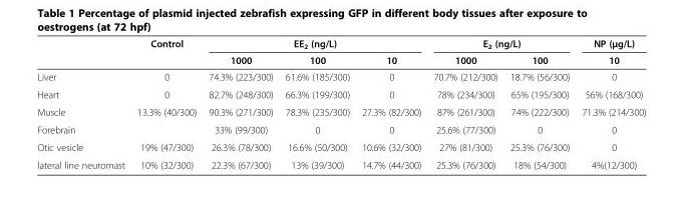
<table><thead><tr><td rowspan="2"></td><td rowspan="2">Control</td><td colspan="3">EE<sub>2</sub> (ng/L)</td><td colspan="2">E<sub>2</sub> (ng/L)</td><td rowspan="2">NP (μg/L) 10</td></tr><tr><td>1000</td><td>100</td><td>10</td><td>1000</td><td>100</td></tr></thead><tbody><tr><td>Liver</td><td>0</td><td>74.3% (223/300)</td><td>61.6% (185/300)</td><td>0</td><td>70.7% (212/300)</td><td>18.7% (56/300)</td><td>0</td></tr><tr><td>Heart</td><td>0</td><td>82.7% (248/300)</td><td>66.3% (199/300)</td><td>0</td><td>78% (234/300)</td><td>65% (195/300)</td><td>56% (168/300)</td></tr><tr><td>Muscle</td><td>13.3% (40/300)</td><td>90.3% (271/300)</td><td>78.3% (235/300)</td><td>27.3% (82/300)</td><td>87% (261/300)</td><td>74% (222/300)</td><td>71.3% (214/300)</td></tr><tr><td>Forebrain</td><td></td><td>33% (99/300)</td><td>0</td><td>0</td><td>25.6% (77/300)</td><td>0</td><td>0</td></tr><tr><td>Otic vesicle</td><td>19% (47/300)</td><td>26.3% (78/300)</td><td>16.6% (50/300)</td><td>10.6% (32/300)</td><td>27% (81/300)</td><td>25.3% (76/300)</td><td>0</td></tr><tr><td>lateral line neuromast</td><td>10% (32/300)</td><td>22.3% (67/300)</td><td>13% (39/300)</td><td>14.7% (44/300)</td><td>25.3% (76/300)</td><td>18% (54/300)</td><td>4%(12/300)</td></tr></tbody></table>